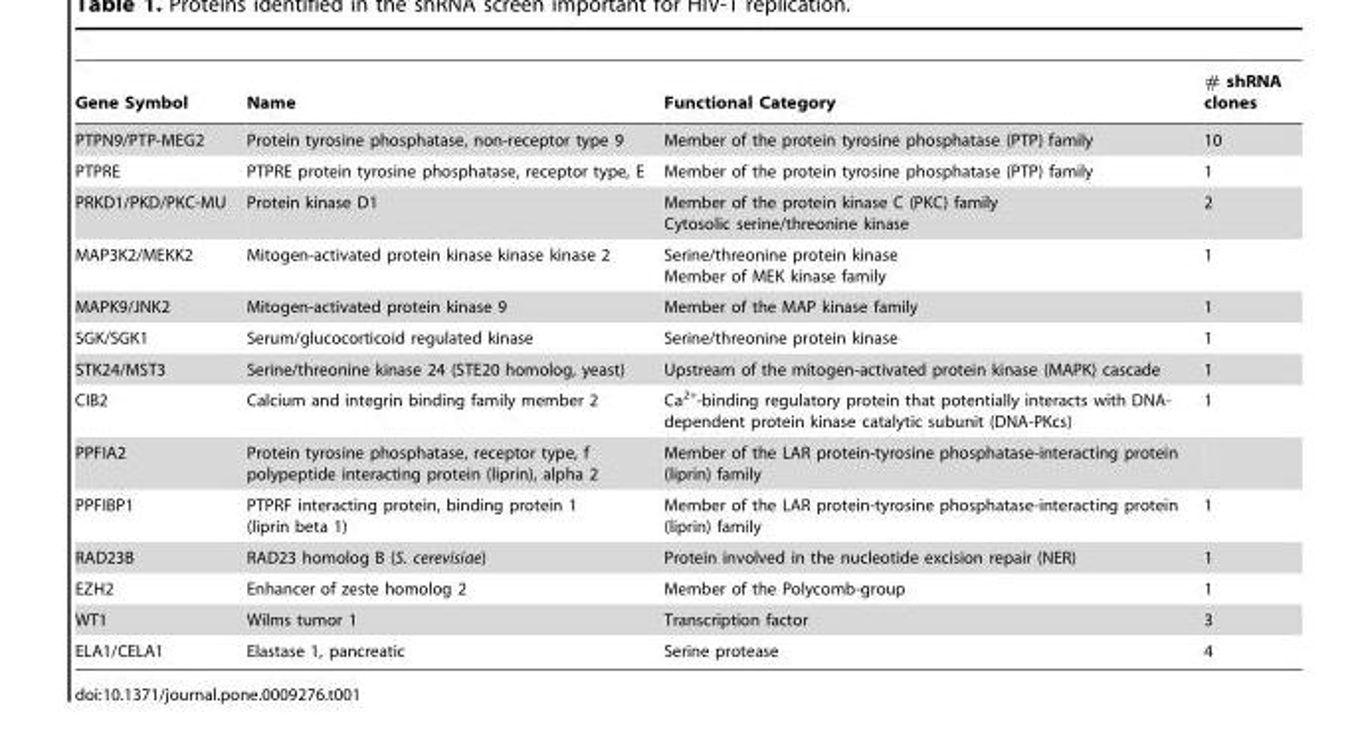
<table><thead><tr><td>Gene Symbol</td><td>Name</td><td>Functional Category</td><td># shRNA clones</td></tr></thead><tbody><tr><td>PTPN9/PTP-MEG2</td><td>Protein tyrosine phosphatase, non-receptor type 9</td><td>Member of the protein tyrosine phosphatase (PTP) family</td><td>10</td></tr><tr><td>PTPRE</td><td>PTPRE protein tyrosine phosphatase, receptor type, E</td><td>Member of the protein tyrosine phosphatase (PTP) family</td><td>1</td></tr><tr><td>PRKD1/PKD/PKC-MU</td><td>Protein kinase D1</td><td>Member of the protein kinase C (PKC) family Cytosolic serine/threonine kinase</td><td>2</td></tr><tr><td>MAP3K2/MEKK2</td><td>Mitogen-activated protein kinase kinase kinase 2</td><td>Serine/threonine protein kinase Member of MEK kinase family</td><td>1</td></tr><tr><td>MAPK9/JNK2</td><td>Mitogen-activated protein kinase 9</td><td>Member of the MAP kinase family</td><td>1</td></tr><tr><td>SGK/SGK1</td><td>Serum/glucocorticoid regulated kinase</td><td>Serine/threonine protein kinase</td><td>1</td></tr><tr><td>STK24/MST3</td><td>Serine/threonine kinase 24 (STE20 homolog, yeast)</td><td>Upstream of the mitogen-activated protein kinase (MAPK) cascade</td><td>1</td></tr><tr><td>CIB2</td><td>Calcium and integrin binding family member 2</td><td>Ca<sup>2+</sup>-binding regulatory protein that potentially interacts with DNA- dependent protein kinase catalytic subunit (DNA-PKcs)</td><td>1</td></tr><tr><td>PPFIA2</td><td>Protein tyrosine phosphatase, receptor type, f polypeptide interacting protein (liprin), alpha 2</td><td>Member of the LAR protein-tyrosine phosphatase-interacting protein (liprin) family</td><td></td></tr><tr><td>PPFIBP1</td><td>PTPRF interacting protein, binding protein 1 (liprin beta 1)</td><td>Member of the LAR protein-tyrosine phosphatase-interacting protein (liprin) family</td><td>1</td></tr><tr><td>RAD23B</td><td>RAD23 homolog B (S. cerevisiae)</td><td>Protein involved in the nucleotide excision repair (NER)</td><td>1</td></tr><tr><td>EZH2</td><td>Enhancer of zeste homolog 2</td><td>Member of the Polycomb-group</td><td>1</td></tr><tr><td>WT1</td><td>Wilms tumor 1</td><td>Transcription factor</td><td>3</td></tr><tr><td>ELA1/CELA1</td><td>Elastase 1, pancreatic</td><td>Serine protease</td><td>4</td></tr></tbody></table>